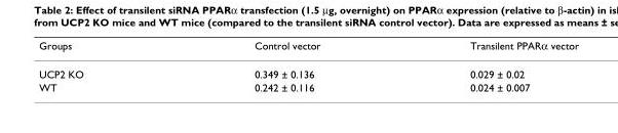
<table><thead><tr><td>Groups</td><td>Control vector</td><td>Transilent PPARα vector</td></tr></thead><tbody><tr><td>UCP2 KO</td><td>0.349 ± 0.136</td><td>0.029 ± 0.02</td></tr><tr><td>WT</td><td>0.242 ± 0.116</td><td>0.024 ± 0.007</td></tr></tbody></table>